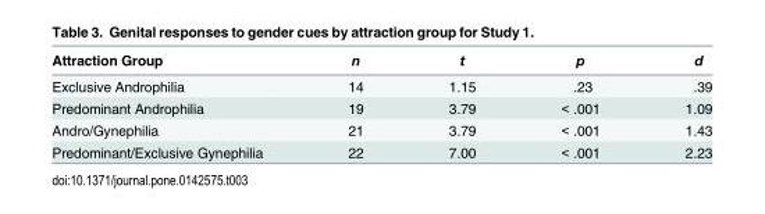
<table><thead><tr><td>Attraction Group</td><td>n</td><td>t</td><td>p</td><td>d</td></tr></thead><tbody><tr><td>Exclusive Androphilia</td><td>14</td><td>1.15</td><td>.23</td><td>.39</td></tr><tr><td>Predominant Androphilia</td><td>19</td><td>3.79</td><td>&lt; .001</td><td>1.09</td></tr><tr><td>Andro/Gynephilia</td><td>21</td><td>3.79</td><td>&lt; .001</td><td>1.43</td></tr><tr><td>Predominant/Exclusive Gynephilia</td><td>22</td><td>7.00</td><td>&lt; .001</td><td>2.23</td></tr></tbody></table>